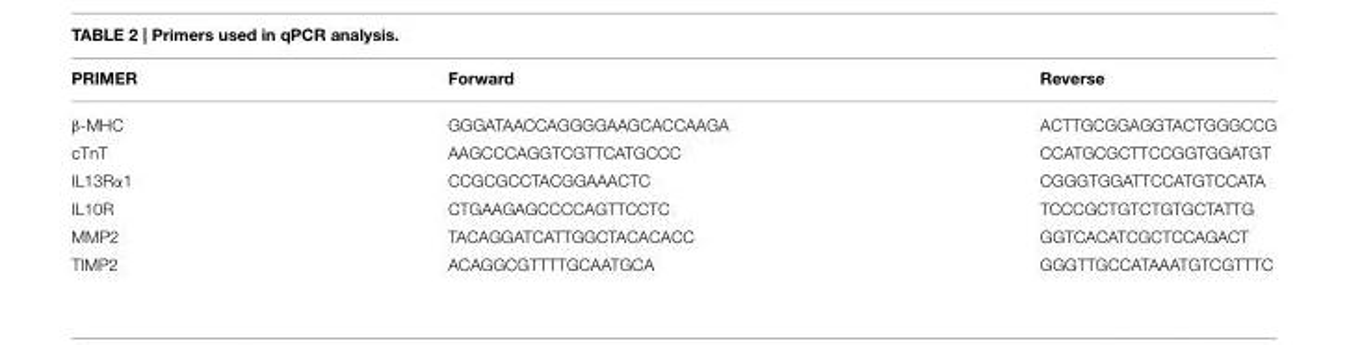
<table><thead><tr><td>PRIMER</td><td>Forward</td><td>Reverse</td></tr></thead><tbody><tr><td>β-MHC</td><td>GGGATAACCAGGGGAAGCACCAAGA</td><td>ACTTGCGGAGGTACTGGGCCG</td></tr><tr><td>cTnT</td><td>AAGCCCAGGTCGTTCATGCCC</td><td>CCATGCGCTTCCGGTGGATGT</td></tr><tr><td>IL13Rα1</td><td>CCGCGCCTACGGAAACTC</td><td>CGGGTGGATTCCATGTCCATA</td></tr><tr><td>IL10R</td><td>CTGAAGAGCCCCAGTTCCTC</td><td>TCCCGCTGTCTGTGCTATTG</td></tr><tr><td>MMP2</td><td>TACAGGATCATTGGCTACACACC</td><td>GGTCACATCGCTCCAGACT</td></tr><tr><td>TIMP2</td><td>ACAGGCGTTTTGCAATGCA</td><td>GGGTTGCCATAAATGTCGTTTC</td></tr></tbody></table>